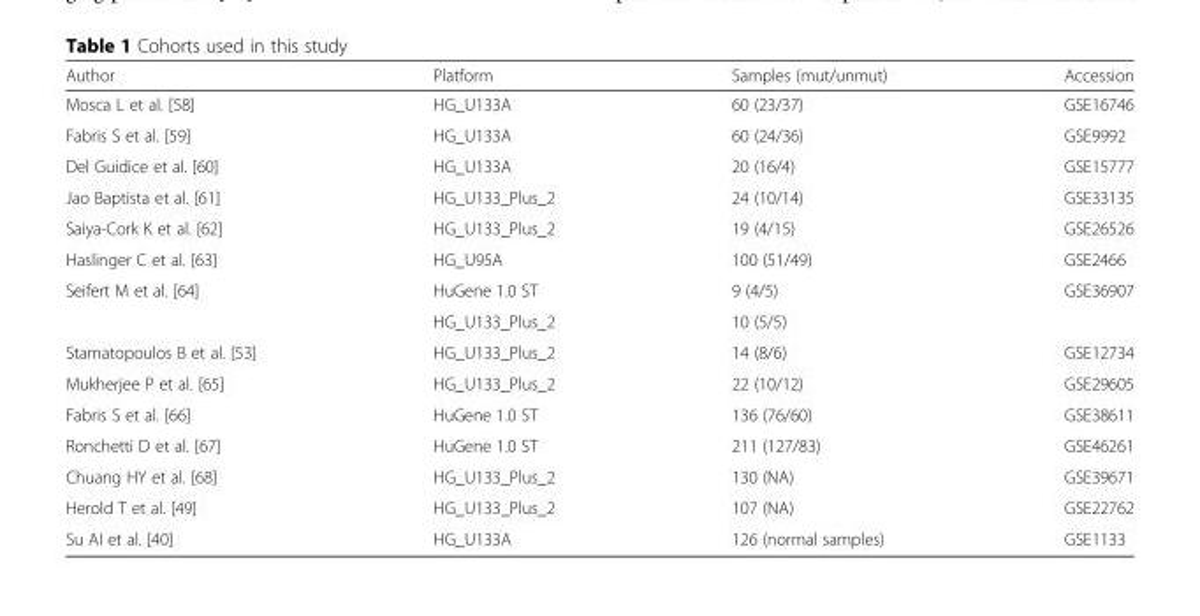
<table><thead><tr><td>Author</td><td>Platform</td><td>Samples (mut/unmut)</td><td>Accession</td></tr></thead><tbody><tr><td>Mosca L et al. [58]</td><td>HG_U133A</td><td>60 (23/37)</td><td>GSE16746</td></tr><tr><td>Fabris S et al. [59]</td><td>HG_U133A</td><td>60 (24/36)</td><td>GSE9992</td></tr><tr><td>Del Guidice et al. [60]</td><td>HG_U133A</td><td>20 (16/4)</td><td>GSE15777</td></tr><tr><td>Jao Baptista et al. [61]</td><td>HG_U133_Plus_2</td><td>24 (10/14)</td><td>GSE33135</td></tr><tr><td>Saiya-Cork K et al. [62]</td><td>HG_U133_Plus_2</td><td>19 (4/15)</td><td>GSE26526</td></tr><tr><td>Haslinger C et al. [63]</td><td>HG_U95A</td><td>100 (51/49)</td><td>GSE2466</td></tr><tr><td rowspan="2">Seifert M et al. [64]</td><td>HuGene 1.0 ST</td><td>9 (4/5)</td><td rowspan="2">GSE36907</td></tr><tr><td>HG_U133_Plus_2</td><td>10 (5/5)</td></tr><tr><td>Stamatopoulos B et al. [53]</td><td>HG_U133_Plus_2</td><td>14 (8/6)</td><td>GSE12734</td></tr><tr><td>Mukherjee P et al. [65]</td><td>HG_U133_Plus_2</td><td>22 (10/12)</td><td>GSE29605</td></tr><tr><td>Fabris S et al. [66]</td><td>HuGene 1.0 ST</td><td>136 (76/60)</td><td>GSE38611</td></tr><tr><td>Ronchetti D et al. [67]</td><td>HuGene 1.0 ST</td><td>211 (127/83)</td><td>GSE46261</td></tr><tr><td>Chuang HY et al. [68]</td><td>HG_U133_Plus_2</td><td>130 (NA)</td><td>GSE39671</td></tr><tr><td>Herold T et al. [49]</td><td>HG_U133_Plus_2</td><td>107 (NA)</td><td>GSE22762</td></tr><tr><td>Su AI et al. [40]</td><td>HG_U133A</td><td>126 (normal samples)</td><td>GSE1133</td></tr></tbody></table>